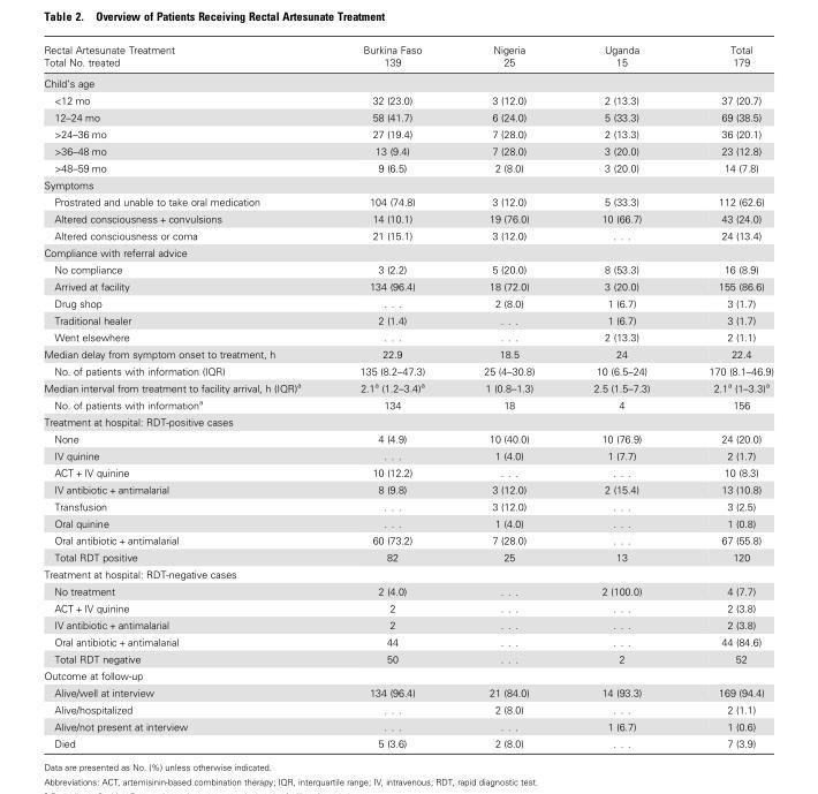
<table><thead><tr><td rowspan="2">Rectal Artesunate Treatment Total No. treated</td><td rowspan="2">Burkina Faso 139</td><td rowspan="2">Nigeria 25</td><td rowspan="2">Uganda 15</td><td rowspan="2">Total 179</td></tr><tr></tr></thead><tbody><tr><td colspan="5">Child’s age</td></tr><tr><td>&lt;12 mo</td><td>32 (23.0)</td><td>3 (12.0)</td><td>2 (13.3)</td><td>37 (20.7)</td></tr><tr><td>12–24 mo</td><td>58 (41.7)</td><td>6 (24.0)</td><td>5 (33.3)</td><td>69 (38.5)</td></tr><tr><td>&gt;24–36 mo</td><td>27 (19.4)</td><td>7 (28.0)</td><td>2 (13.3)</td><td>36 (20.1)</td></tr><tr><td>&gt;36–48 mo</td><td>13 (9.4)</td><td>7 (28.0)</td><td>3 (20.0)</td><td>23 (12.8)</td></tr><tr><td>&gt;48–59 mo</td><td>9 (6.5)</td><td>2 (8.0)</td><td>3 (20.0)</td><td>14 (7.8)</td></tr><tr><td colspan="5">Symptoms</td></tr><tr><td>Prostrated and unable to take oral medication</td><td>104 (74.8)</td><td>3 (12.0)</td><td>5 (33.3)</td><td>112 (62.6)</td></tr><tr><td>Altered consciousness + convulsions</td><td>14 (10.1)</td><td>19 (76.0)</td><td>10 (66.7)</td><td>43 (24.0)</td></tr><tr><td>Altered consciousness or coma</td><td>21 (15.1)</td><td>3 (12.0)</td><td>. . .</td><td>24 (13.4)</td></tr><tr><td colspan="5">Compliance with referral advice</td></tr><tr><td>No compliance</td><td>3 (2.2)</td><td>5 (20.0)</td><td>8 (53.3)</td><td>16 (8.9)</td></tr><tr><td>Arrived at facility</td><td>134 (96.4)</td><td>18 (72.0)</td><td>3 (20.0)</td><td>155 (86.6)</td></tr><tr><td>Drug shop</td><td>. . .</td><td>2 (8.0)</td><td>1 (6.7)</td><td>3 (1.7)</td></tr><tr><td>Traditional healer</td><td>2 (1.4)</td><td>. . .</td><td>1 (6.7)</td><td>3 (1.7)</td></tr><tr><td>Went elsewhere</td><td>. . .</td><td>. . .</td><td>2 (13.3)</td><td>2 (1.1)</td></tr><tr><td>Median delay from symptom onset to treatment, h</td><td>22.9</td><td>18.5</td><td>24</td><td>22.4</td></tr><tr><td>No. of patients with information (IQR)</td><td>135 (8.2–47.3)</td><td>25 (4–30.8)</td><td>10 (6.5–24)</td><td>170 (8.1–46.9)</td></tr><tr><td>Median interval from treatment to facility arrival, h (IQR)<sup>a</sup></td><td>2.1<sup>a</sup> (1.2–3.4)<sup>a</sup></td><td>1 (0.8–1.3)</td><td>2.5 (1.5–7.3)</td><td>2.1<sup>a</sup> (1–3.3)<sup>a</sup></td></tr><tr><td>No. of patients with information<sup>a</sup></td><td>134</td><td>18</td><td>4</td><td>156</td></tr><tr><td colspan="5">Treatment at hospital: RDT-positive cases</td></tr><tr><td>None</td><td>4 (4.9)</td><td>10 (40.0)</td><td>10 (76.9)</td><td>24 (20.0)</td></tr><tr><td>IV quinine</td><td>. . .</td><td>1 (4.0)</td><td>1 (7.7)</td><td>2 (1.7)</td></tr><tr><td>ACT + IV quinine</td><td>10 (12.2)</td><td>. . .</td><td>. . .</td><td>10 (8.3)</td></tr><tr><td>IV antibiotic + antimalarial</td><td>8 (9.8)</td><td>3 (12.0)</td><td>2 (15.4)</td><td>13 (10.8)</td></tr><tr><td>Transfusion</td><td>. . .</td><td>3 (12.0)</td><td>. . .</td><td>3 (2.5)</td></tr><tr><td>Oral quinine</td><td>. . .</td><td>1 (4.0)</td><td>. . .</td><td>1 (0.8)</td></tr><tr><td>Oral antibiotic + antimalarial</td><td>60 (73.2)</td><td>7 (28.0)</td><td>. . .</td><td>67 (55.8)</td></tr><tr><td>Total RDT positive</td><td>82</td><td>25</td><td>13</td><td>120</td></tr><tr><td colspan="5">Treatment at hospital: RDT-negative cases</td></tr><tr><td>No treatment</td><td>2 (4.0)</td><td>. . .</td><td>2 (100.0)</td><td>4 (7.7)</td></tr><tr><td>ACT + IV quinine</td><td>2</td><td>. . .</td><td>. . .</td><td>2 (3.8)</td></tr><tr><td>IV antibiotic + antimalarial</td><td>2</td><td>. . .</td><td>. . .</td><td>2 (3.8)</td></tr><tr><td>Oral antibiotic + antimalarial</td><td>44</td><td>. . .</td><td>. . .</td><td>44 (84.6)</td></tr><tr><td>Total RDT negative</td><td>50</td><td>. . .</td><td>2</td><td>52</td></tr><tr><td colspan="5">Outcome at follow-up</td></tr><tr><td>Alive/well at interview</td><td>134 (96.4)</td><td>21 (84.0)</td><td>14 (93.3)</td><td>169 (94.4)</td></tr><tr><td>Alive/hospitalized</td><td>. . .</td><td>2 (8.0)</td><td>. . .</td><td>2 (1.1)</td></tr><tr><td>Alive/not present at interview</td><td>. . .</td><td>. . .</td><td>1 (6.7)</td><td>1 (0.6)</td></tr><tr><td>Died</td><td>5 (3.6)</td><td>2 (8.0)</td><td>. . .</td><td>7 (3.9)</td></tr></tbody></table>